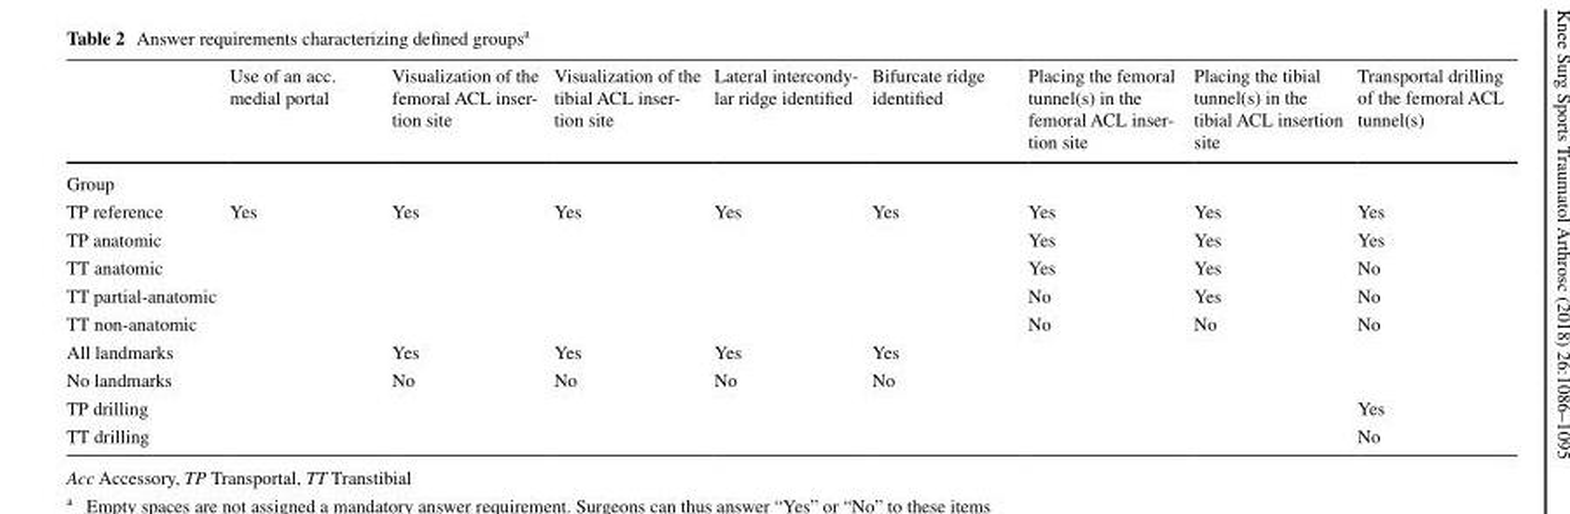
<table><thead><tr><td></td><td>Use of an acc. medial portal</td><td>Visualization of the femoral ACL inser- tion site</td><td>Visualization of the tibial ACL inser- tion site</td><td>Lateral intercondy- lar ridge identified</td><td>Bifurcate ridge identified</td><td>Placing the femoral tunnel(s) in the femoral ACL inser- tion site</td><td>Placing the tibial tunnel(s) in the tibial ACL insertion site</td><td>Transportal drilling of the femoral ACL tunnel(s)</td></tr></thead><tbody><tr><td colspan="9">Group</td></tr><tr><td>TP reference</td><td>Yes</td><td>Yes</td><td>Yes</td><td>Yes</td><td>Yes</td><td>Yes</td><td>Yes</td><td>Yes</td></tr><tr><td>TP anatomic</td><td></td><td></td><td></td><td></td><td></td><td>Yes</td><td>Yes</td><td>Yes</td></tr><tr><td>TT anatomic</td><td></td><td></td><td></td><td></td><td></td><td>Yes</td><td>Yes</td><td>No</td></tr><tr><td>TT partial-anatomic</td><td></td><td></td><td></td><td></td><td></td><td>No</td><td>Yes</td><td>No</td></tr><tr><td>TT non-anatomic</td><td></td><td></td><td></td><td></td><td></td><td>No</td><td>No</td><td>No</td></tr><tr><td>All landmarks</td><td></td><td>Yes</td><td>Yes</td><td>Yes</td><td>Yes</td><td></td><td></td><td></td></tr><tr><td>No landmarks</td><td></td><td>No</td><td>No</td><td>No</td><td>No</td><td></td><td></td><td></td></tr><tr><td>TP drilling</td><td></td><td></td><td></td><td></td><td></td><td></td><td></td><td>Yes</td></tr><tr><td>TT drilling</td><td></td><td></td><td></td><td></td><td></td><td></td><td></td><td>No</td></tr></tbody></table>